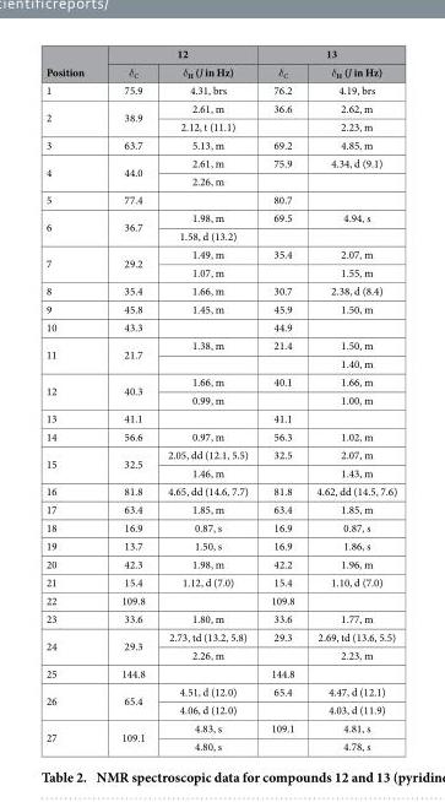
<table><thead><tr><td rowspan="2">Position</td><td colspan="2">12</td><td colspan="2">13</td></tr><tr><td>δ<sub>C</sub></td><td>δ<sub>H</sub> (J in Hz)</td><td>δ<sub>C</sub></td><td>δ<sub>H</sub> (J in Hz)</td></tr></thead><tbody><tr><td>1</td><td>75.9</td><td>4.31, brs</td><td>76.2</td><td>4.19, brs</td></tr><tr><td rowspan="2">2</td><td rowspan="2">38.9</td><td>2.61, m</td><td>36.6</td><td>2.62, m</td></tr><tr><td>2.12, t (11.1)</td><td></td><td>2.23, m</td></tr><tr><td>3</td><td>63.7</td><td>5.13, m</td><td>69.2</td><td>4.85, m</td></tr><tr><td rowspan="2">4</td><td rowspan="2">44.0</td><td>2.61, m</td><td>75.9</td><td>4.34, d (9.1)</td></tr><tr><td>2.26, m</td><td></td><td></td></tr><tr><td>5</td><td>77.4</td><td></td><td>80.7</td><td></td></tr><tr><td rowspan="2">6</td><td rowspan="2">36.7</td><td>1.98, m</td><td>69.5</td><td>4.94, s</td></tr><tr><td>1.58, d (13.2)</td><td></td><td></td></tr><tr><td rowspan="2">7</td><td rowspan="2">29.2</td><td>1.49, m</td><td>35.4</td><td>2.07, m</td></tr><tr><td>1.07, m</td><td></td><td>1.55, m</td></tr><tr><td>8</td><td>35.4</td><td>1.66, m</td><td>30.7</td><td>2.38, d (8.4)</td></tr><tr><td>9</td><td>45.8</td><td>1.45, m</td><td>45.9</td><td>1.50, m</td></tr><tr><td>10</td><td>43.3</td><td></td><td>44.9</td><td></td></tr><tr><td rowspan="2">11</td><td rowspan="2">21.7</td><td>1.38, m</td><td>21.4</td><td>1.50, m</td></tr><tr><td></td><td></td><td>1.40, m</td></tr><tr><td rowspan="2">12</td><td rowspan="2">40.3</td><td>1.66, m</td><td>40.1</td><td>1.66, m</td></tr><tr><td>0.99, m</td><td></td><td>1.00, m</td></tr><tr><td>13</td><td>41.1</td><td></td><td>41.1</td><td></td></tr><tr><td>14</td><td>56.6</td><td>0.97, m</td><td>56.3</td><td>1.02, m</td></tr><tr><td rowspan="2">15</td><td rowspan="2">32.5</td><td>2.05, dd (12.1, 5.5)</td><td>32.5</td><td>2.07, m</td></tr><tr><td>1.46, m</td><td></td><td>1.43, m</td></tr><tr><td>16</td><td>81.8</td><td>4.65, dd (14.6, 7.7)</td><td>81.8</td><td>4.62, dd (14.5, 7.6)</td></tr><tr><td>17</td><td>63.4</td><td>1.85, m</td><td>63.4</td><td>1.85, m</td></tr><tr><td>18</td><td>16.9</td><td>0.87, s</td><td>16.9</td><td>0.87, s</td></tr><tr><td>19</td><td>13.7</td><td>1.50, s</td><td>16.9</td><td>1.86, s</td></tr><tr><td>20</td><td>42.3</td><td>1.98, m</td><td>42.2</td><td>1.96, m</td></tr><tr><td>21</td><td>15.4</td><td>1.12, d (7.0)</td><td>15.4</td><td>1.10, d (7.0)</td></tr><tr><td>22</td><td>109.8</td><td></td><td>109.8</td><td></td></tr><tr><td>23</td><td>33.6</td><td>1.80, m</td><td>33.6</td><td>1.77, m</td></tr><tr><td rowspan="2">24</td><td rowspan="2">29.3</td><td>2.73, td (13.2, 5.8)</td><td>29.3</td><td>2.69, td (13.6, 5.5)</td></tr><tr><td>2.26, m</td><td></td><td>2.23, m</td></tr><tr><td>25</td><td>144.8</td><td></td><td>144.8</td><td></td></tr><tr><td rowspan="2">26</td><td rowspan="2">65.4</td><td>4.51, d (12.0)</td><td>65.4</td><td>4.47, d (12.1)</td></tr><tr><td>4.06, d (12.0)</td><td></td><td>4.03, d (11.9)</td></tr><tr><td rowspan="2">27</td><td rowspan="2">109.1</td><td>4.83, s</td><td>109.1</td><td>4.81, s</td></tr><tr><td>4.80, s</td><td></td><td>4.78, s</td></tr></tbody></table>